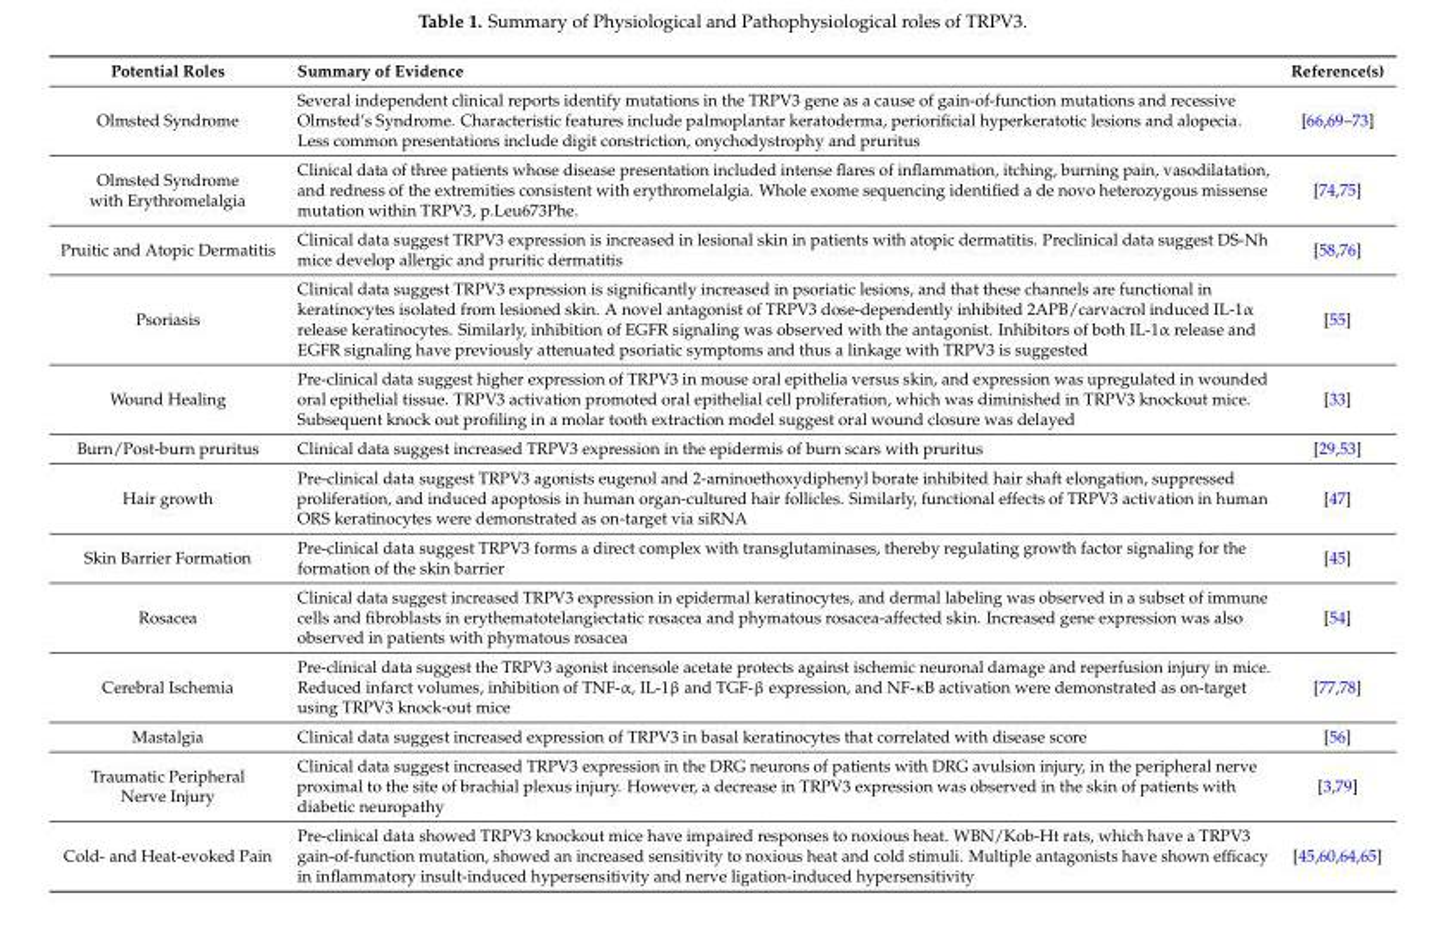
<table><thead><tr><td>Potential Roles</td><td>Summary of Evidence</td><td>Reference(s)</td></tr></thead><tbody><tr><td>Olmsted Syndrome</td><td>Several independent clinical reports identify mutations in the TRPV3 gene as a cause of gain-of-function mutations and recessive Olmsted’s Syndrome. Characteristic features include palmoplantar keratoderma, periorificial hyperkeratotic lesions and alopecia. Less common presentations include digit constriction, onychodystrophy and pruritus</td><td>[66,69–73]</td></tr><tr><td>Olmsted Syndrome with Erythromelalgia</td><td>Clinical data of three patients whose disease presentation included intense flares of inflammation, itching, burning pain, vasodilatation, and redness of the extremities consistent with erythromelalgia. Whole exome sequencing identified a de novo heterozygous missense mutation within TRPV3, p.Leu673Phe.</td><td>[74,75]</td></tr><tr><td>Pruitic and Atopic Dermatitis</td><td>Clinical data suggest TRPV3 expression is increased in lesional skin in patients with atopic dermatitis. Preclinical data suggest DS-Nh mice develop allergic and pruritic dermatitis</td><td>[58,76]</td></tr><tr><td>Psoriasis</td><td>Clinical data suggest TRPV3 expression is significantly increased in psoriatic lesions, and that these channels are functional in keratinocytes isolated from lesioned skin. A novel antagonist of TRPV3 dose-dependently inhibited 2APB/carvacrol induced IL-1α release keratinocytes. Similarly, inhibition of EGFR signaling was observed with the antagonist. Inhibitors of both IL-1α release and EGFR signaling have previously attenuated psoriatic symptoms and thus a linkage with TRPV3 is suggested</td><td>[55]</td></tr><tr><td>Wound Healing</td><td>Pre-clinical data suggest higher expression of TRPV3 in mouse oral epithelia versus skin, and expression was upregulated in wounded oral epithelial tissue. TRPV3 activation promoted oral epithelial cell proliferation, which was diminished in TRPV3 knockout mice. Subsequent knock out profiling in a molar tooth extraction model suggest oral wound closure was delayed</td><td>[33]</td></tr><tr><td>Burn/Post-burn pruritus</td><td>Clinical data suggest increased TRPV3 expression in the epidermis of burn scars with pruritus</td><td>[29,53]</td></tr><tr><td>Hair growth</td><td>Pre-clinical data suggest TRPV3 agonists eugenol and 2-aminoethoxydiphenyl borate inhibited hair shaft elongation, suppressed proliferation, and induced apoptosis in human organ-cultured hair follicles. Similarly, functional effects of TRPV3 activation in human ORS keratinocytes were demonstrated as on-target via siRNA</td><td>[47]</td></tr><tr><td>Skin Barrier Formation</td><td>Pre-clinical data suggest TRPV3 forms a direct complex with transglutaminases, thereby regulating growth factor signaling for the formation of the skin barrier</td><td>[45]</td></tr><tr><td>Rosacea</td><td>Clinical data suggest increased TRPV3 expression in epidermal keratinocytes, and dermal labeling was observed in a subset of immune cells and fibroblasts in erythematotelangiectatic rosacea and phymatous rosacea-affected skin. Increased gene expression was also observed in patients with phymatous rosacea</td><td>[54]</td></tr><tr><td>Cerebral Ischemia</td><td>Pre-clinical data suggest the TRPV3 agonist incensole acetate protects against ischemic neuronal damage and reperfusion injury in mice. Reduced infarct volumes, inhibition of TNF-α, IL-1β and TGF-β expression, and NF-κB activation were demonstrated as on-target using TRPV3 knock-out mice</td><td>[77,78]</td></tr><tr><td>Mastalgia</td><td>Clinical data suggest increased expression of TRPV3 in basal keratinocytes that correlated with disease score</td><td>[56]</td></tr><tr><td>Traumatic Peripheral Nerve Injury</td><td>Clinical data suggest increased TRPV3 expression in the DRG neurons of patients with DRG avulsion injury, in the peripheral nerve proximal to the site of brachial plexus injury. However, a decrease in TRPV3 expression was observed in the skin of patients with diabetic neuropathy</td><td>[3,79]</td></tr><tr><td>Cold- and Heat-evoked Pain</td><td>Pre-clinical data showed TRPV3 knockout mice have impaired responses to noxious heat. WBN/Kob-Ht rats, which have a TRPV3 gain-of-function mutation, showed an increased sensitivity to noxious heat and cold stimuli. Multiple antagonists have shown efficacy in inflammatory insult-induced hypersensitivity and nerve ligation-induced hypersensitivity</td><td>[45,60,64,65]</td></tr></tbody></table>